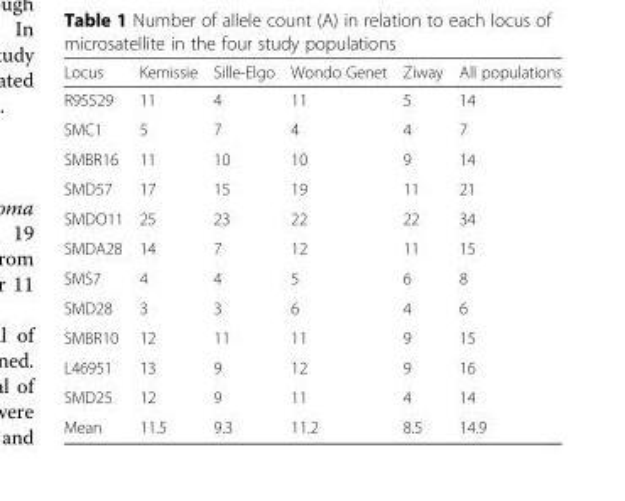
<table><thead><tr><td>Locus</td><td>Kemissie</td><td>Sille-Elgo</td><td>Wondo Genet</td><td>Ziway</td><td>All populations</td></tr></thead><tbody><tr><td>R95529</td><td>11</td><td>4</td><td>11</td><td>5</td><td>14</td></tr><tr><td>SMC1</td><td>5</td><td>7</td><td>4</td><td>4</td><td>7</td></tr><tr><td>SMBR16</td><td>11</td><td>10</td><td>10</td><td>9</td><td>14</td></tr><tr><td>SMD57</td><td>17</td><td>15</td><td>19</td><td>11</td><td>21</td></tr><tr><td>SMDO11</td><td>25</td><td>23</td><td>22</td><td>22</td><td>34</td></tr><tr><td>SMDA28</td><td>14</td><td>7</td><td>12</td><td>11</td><td>15</td></tr><tr><td>SMS7</td><td>4</td><td>4</td><td>5</td><td>6</td><td>8</td></tr><tr><td>SMD28</td><td>3</td><td>3</td><td>6</td><td>4</td><td>6</td></tr><tr><td>SMBR10</td><td>12</td><td>11</td><td>11</td><td>9</td><td>15</td></tr><tr><td>L46951</td><td>13</td><td>9</td><td>12</td><td>9</td><td>16</td></tr><tr><td>SMD25</td><td>12</td><td>9</td><td>11</td><td>4</td><td>14</td></tr><tr><td>Mean</td><td>11.5</td><td>9.3</td><td>11.2</td><td>8.5</td><td>14.9</td></tr></tbody></table>